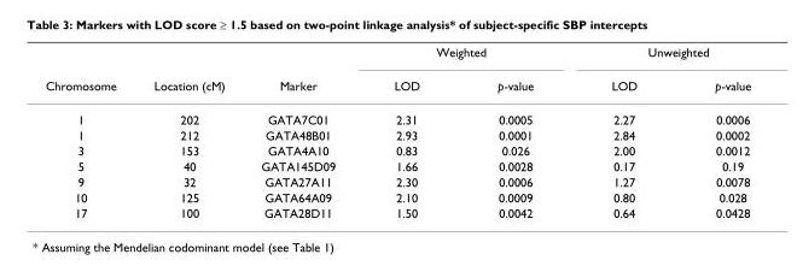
<table><thead><tr><td rowspan="2">Chromosome</td><td rowspan="2">Location (cM)</td><td rowspan="2">Marker</td><td colspan="2">Weighted</td><td colspan="2">Unweighted</td></tr><tr><td>LOD</td><td>p-value</td><td>LOD</td><td>p-value</td></tr></thead><tbody><tr><td>1</td><td>202</td><td>GATA7C01</td><td>2.31</td><td>0.0005</td><td>2.27</td><td>0.0006</td></tr><tr><td>1</td><td>212</td><td>GATA48B01</td><td>2.93</td><td>0.0001</td><td>2.84</td><td>0.0002</td></tr><tr><td>3</td><td>153</td><td>GATA4A10</td><td>0.83</td><td>0.026</td><td>2.00</td><td>0.0012</td></tr><tr><td>5</td><td>40</td><td>GATA145D09</td><td>1.66</td><td>0.0028</td><td>0.17</td><td>0.19</td></tr><tr><td>9</td><td>32</td><td>GATA27A11</td><td>2.30</td><td>0.0006</td><td>1.27</td><td>0.0078</td></tr><tr><td>10</td><td>125</td><td>GATA64A09</td><td>2.10</td><td>0.0009</td><td>0.80</td><td>0.028</td></tr><tr><td>17</td><td>100</td><td>GATA28D11</td><td>1.50</td><td>0.0042</td><td>0.64</td><td>0.0428</td></tr></tbody></table>